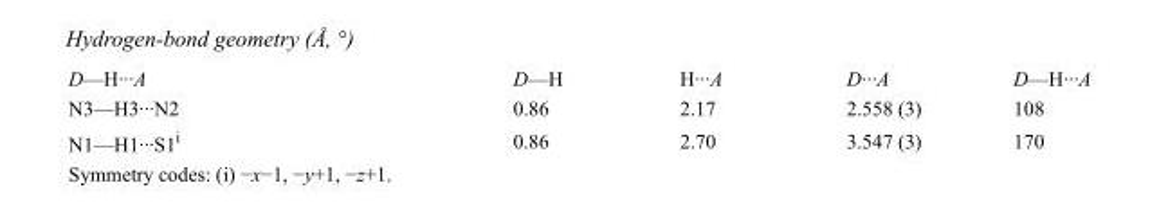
<table><tbody><tr><td>D—H···A</td><td>D—H</td><td>H···A</td><td>D···A</td><td>D—H···A</td></tr><tr><td>N3—H3···N2</td><td>0.86</td><td>2.17</td><td>2.558 (3)</td><td>108</td></tr><tr><td>N1—H1···S1<sup>i</sup></td><td>0.86</td><td>2.70</td><td>3.547 (3)</td><td>170</td></tr></tbody></table>